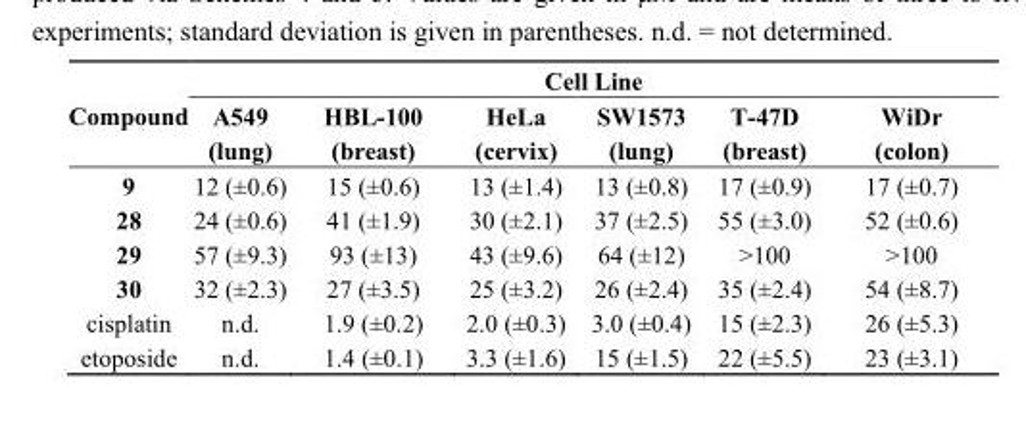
<table><thead><tr><td rowspan="2">Compound</td><td colspan="6">Cell Line</td></tr><tr><td>A549 (lung)</td><td>HBL-100 (breast)</td><td>HeLa (cervix)</td><td>SW1573 (lung)</td><td>T-47D (breast)</td><td>WiDr (colon)</td></tr></thead><tbody><tr><td>9</td><td>12 (±0.6)</td><td>15 (±0.6)</td><td>13 (±1.4)</td><td>13 (±0.8)</td><td>17 (±0.9)</td><td>17 (±0.7)</td></tr><tr><td>28</td><td>24 (±0.6)</td><td>41 (±1.9)</td><td>30 (±2.1)</td><td>37 (±2.5)</td><td>55 (±3.0)</td><td>52 (±0.6)</td></tr><tr><td>29</td><td>57 (±9.3)</td><td>93 (±13)</td><td>43 (±9.6)</td><td>64 (±12)</td><td>&gt;100</td><td>&gt;100</td></tr><tr><td>30</td><td>32 (±2.3)</td><td>27 (±3.5)</td><td>25 (±3.2)</td><td>26 (±2.4)</td><td>35 (±2.4)</td><td>54 (±8.7)</td></tr><tr><td>cisplatin</td><td>n.d.</td><td>1.9 (±0.2)</td><td>2.0 (±0.3)</td><td>3.0 (±0.4)</td><td>15 (±2.3)</td><td>26 (±5.3)</td></tr><tr><td>etoposide</td><td>n.d.</td><td>1.4 (±0.1)</td><td>3.3 (±1.6)</td><td>15 (±1.5)</td><td>22 (±5.5)</td><td>23 (±3.1)</td></tr></tbody></table>